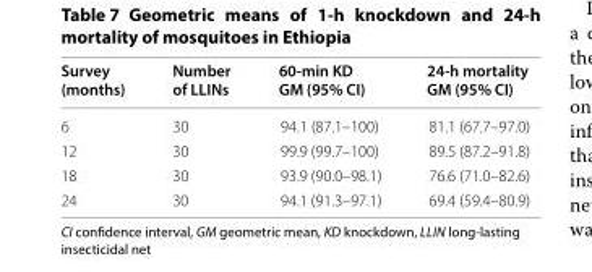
<table><thead><tr><td>Survey (months)</td><td>Number of LLINs</td><td>60‑min KD GM (95% CI)</td><td>24‑h mortality GM (95% CI)</td></tr></thead><tbody><tr><td>6</td><td>30</td><td>94.1 (87.1–100)</td><td>81.1 (67.7–97.0)</td></tr><tr><td>12</td><td>30</td><td>99.9 (99.7–100)</td><td>89.5 (87.2–91.8)</td></tr><tr><td>18</td><td>30</td><td>93.9 (90.0–98.1)</td><td>76.6 (71.0–82.6)</td></tr><tr><td>24</td><td>30</td><td>94.1 (91.3–97.1)</td><td>69.4 (59.4–80.9)</td></tr></tbody></table>